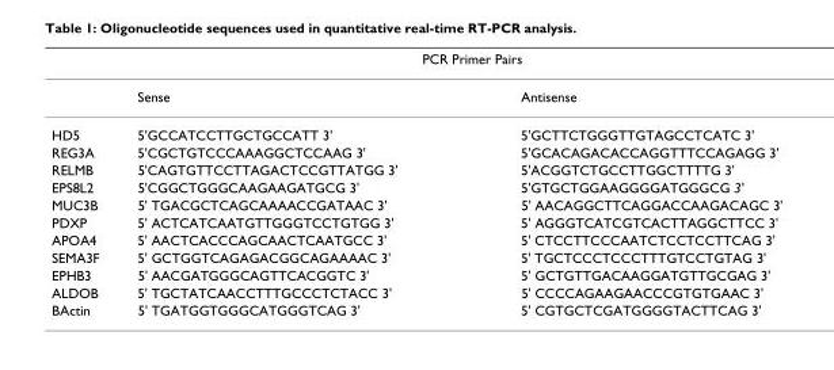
<table><thead><tr><td colspan="3">PCR Primer Pairs</td></tr><tr><td></td><td>Sense</td><td>Antisense</td></tr></thead><tbody><tr><td>HD5</td><td>5&#x27;GCCATCCTTGCTGCCATT 3&#x27;</td><td>5&#x27;GCTTCTGGGTTGTAGCCTCATC 3&#x27;</td></tr><tr><td>REG3A</td><td>5&#x27;CGCTGTCCCAAAGGCTCCAAG 3&#x27;</td><td>5&#x27;GCACAGACACCAGGTTTCCAGAGG 3&#x27;</td></tr><tr><td>RELMB</td><td>5&#x27;CAGTGTTCCTTAGACTCCGTTATGG 3&#x27;</td><td>5&#x27;ACGGTCTGCCTTGGCTTTTG 3&#x27;</td></tr><tr><td>EPS8L2</td><td>5&#x27;CGGCTGGGCAAGAAGATGCG 3&#x27;</td><td>5&#x27;GTGCTGGAAGGGGATGGGCG 3&#x27;</td></tr><tr><td>MUC3B</td><td>5&#x27; TGACGCTCAGCAAAACCGATAAC 3&#x27;</td><td>5&#x27; AACAGGCTTCAGGACCAAGACAGC 3&#x27;</td></tr><tr><td>PDXP</td><td>5&#x27; ACTCATCAATGTTGGGTCCTGTGG 3&#x27;</td><td>5&#x27; AGGGTCATCGTCACTTAGGCTTCC 3&#x27;</td></tr><tr><td>APOA4</td><td>5&#x27; AACTCACCCAGCAACTCAATGCC 3&#x27;</td><td>5&#x27; CTCCTTCCCAATCTCCTCCTTCAG 3&#x27;</td></tr><tr><td>SEMA3F</td><td>5&#x27; GCTGGTCAGAGACGGCAGAAAAC 3&#x27;</td><td>5&#x27; TGCTCCCTCCCTTTGTCCTGTAG 3&#x27;</td></tr><tr><td>EPHB3</td><td>5&#x27; AACGATGGGCAGTTCACGGTC 3&#x27;</td><td>5&#x27; GCTGTTGACAAGGATGTTGCGAG 3&#x27;</td></tr><tr><td>ALDOB</td><td>5&#x27; TGCTATCAACCTTTGCCCTCTACC 3&#x27;</td><td>5&#x27; CCCCAGAAGAACCCGTGTGAAC 3&#x27;</td></tr><tr><td>BActin</td><td>5&#x27; TGATGGTGGGCATGGGTCAG 3&#x27;</td><td>5&#x27; CGTGCTCGATGGGGTACTTCAG 3&#x27;</td></tr></tbody></table>